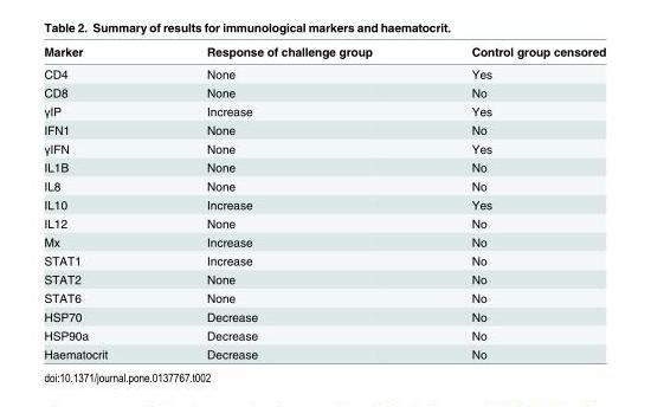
<table><thead><tr><td>Marker</td><td>Response of challenge group</td><td>Control group censored</td></tr></thead><tbody><tr><td>CD4</td><td>None</td><td>Yes</td></tr><tr><td>CD8</td><td>None</td><td>No</td></tr><tr><td>γIP</td><td>Increase</td><td>Yes</td></tr><tr><td>IFN1</td><td>None</td><td>No</td></tr><tr><td>γIFN</td><td>None</td><td>Yes</td></tr><tr><td>IL1B</td><td>None</td><td>No</td></tr><tr><td>IL8</td><td>None</td><td>No</td></tr><tr><td>IL10</td><td>Increase</td><td>Yes</td></tr><tr><td>IL12</td><td>None</td><td>No</td></tr><tr><td>Mx</td><td>Increase</td><td>No</td></tr><tr><td>STAT1</td><td>Increase</td><td>No</td></tr><tr><td>STAT2</td><td>None</td><td>No</td></tr><tr><td>STAT6</td><td>None</td><td>No</td></tr><tr><td>HSP70</td><td>Decrease</td><td>No</td></tr><tr><td>HSP90a</td><td>Decrease</td><td>No</td></tr><tr><td>Haematocrit</td><td>Decrease</td><td>No</td></tr></tbody></table>